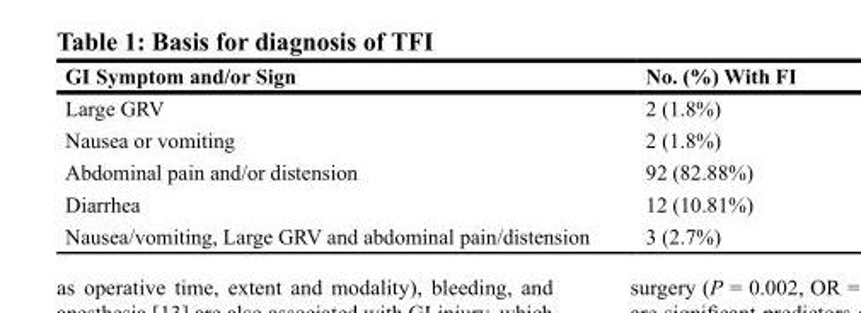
<table><thead><tr><td>GI Symptom and/or Sign</td><td>No. (%) With FI</td></tr></thead><tbody><tr><td>Large GRV</td><td>2 (1.8%)</td></tr><tr><td>Nausea or vomiting</td><td>2 (1.8%)</td></tr><tr><td>Abdominal pain and/or distension</td><td>92 (82.88%)</td></tr><tr><td>Diarrhea</td><td>12 (10.81%)</td></tr><tr><td>Nausea/vomiting, Large GRV and abdominal pain/distension</td><td>3 (2.7%)</td></tr></tbody></table>